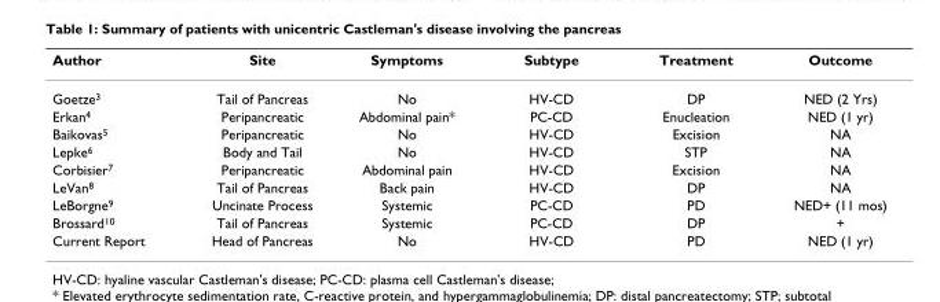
<table><thead><tr><td>Author</td><td>Site</td><td>Symptoms</td><td>Subtype</td><td>Treatment</td><td>Outcome</td></tr></thead><tbody><tr><td>Goetze<sup>3</sup></td><td>Tail of Pancreas</td><td>No</td><td>HV-CD</td><td>DP</td><td>NED (2 Yrs)</td></tr><tr><td>Erkan<sup>4</sup></td><td>Peripancreatic</td><td>Abdominal pain*</td><td>PC-CD</td><td>Enucleation</td><td>NED (1 yr)</td></tr><tr><td>Baikovas<sup>5</sup></td><td>Peripancreatic</td><td>No</td><td>HV-CD</td><td>Excision</td><td>NA</td></tr><tr><td>Lepke<sup>6</sup></td><td>Body and Tail</td><td>No</td><td>HV-CD</td><td>STP</td><td>NA</td></tr><tr><td>Corbisier<sup>7</sup></td><td>Peripancreatic</td><td>Abdominal pain</td><td>HV-CD</td><td>Excision</td><td>NA</td></tr><tr><td>LeVan<sup>8</sup></td><td>Tail of Pancreas</td><td>Back pain</td><td>HV-CD</td><td>DP</td><td>NA</td></tr><tr><td>LeBorgne<sup>9</sup></td><td>Uncinate Process</td><td>Systemic</td><td>PC-CD</td><td>PD</td><td>NED+ (11 mos)</td></tr><tr><td>Brossard<sup>10</sup></td><td>Tail of Pancreas</td><td>Systemic</td><td>PC-CD</td><td>DP</td><td>+</td></tr><tr><td>Current Report</td><td>Head of Pancreas</td><td>No</td><td>HV-CD</td><td>PD</td><td>NED (1 yr)</td></tr></tbody></table>